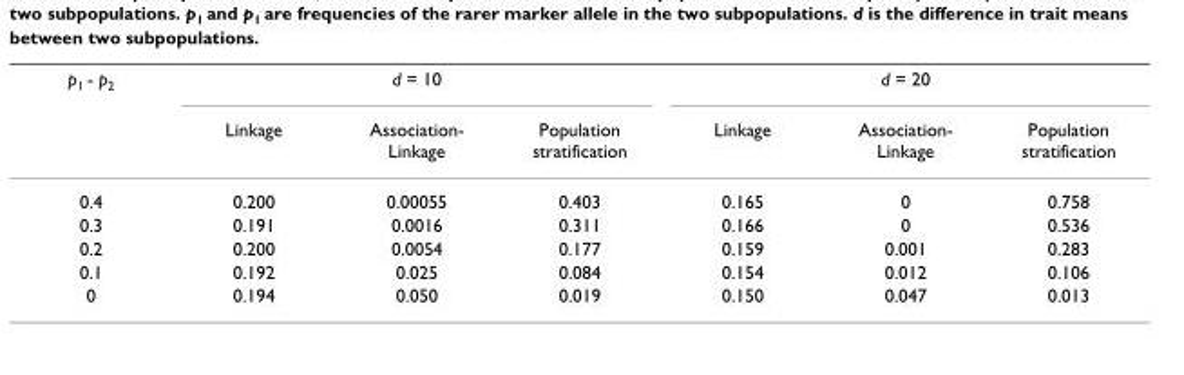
<table><thead><tr><td rowspan="2">p<sub>1</sub> - p<sub>2</sub></td><td colspan="3">d = 10</td><td colspan="3">d = 20</td></tr><tr><td>Linkage</td><td>Association- Linkage</td><td>Population stratification</td><td>Linkage</td><td>Association- Linkage</td><td>Population stratification</td></tr></thead><tbody><tr><td>0.4</td><td>0.200</td><td>0.00055</td><td>0.403</td><td>0.165</td><td>0</td><td>0.758</td></tr><tr><td>0.3</td><td>0.191</td><td>0.0016</td><td>0.311</td><td>0.166</td><td>0</td><td>0.536</td></tr><tr><td>0.2</td><td>0.200</td><td>0.0054</td><td>0.177</td><td>0.159</td><td>0.001</td><td>0.283</td></tr><tr><td>0.1</td><td>0.192</td><td>0.025</td><td>0.084</td><td>0.154</td><td>0.012</td><td>0.106</td></tr><tr><td>0</td><td>0.194</td><td>0.050</td><td>0.019</td><td>0.150</td><td>0.047</td><td>0.013</td></tr></tbody></table>